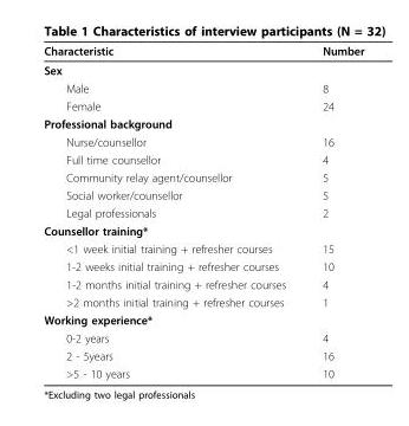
<table><thead><tr><td>Characteristic</td><td>Number</td></tr></thead><tbody><tr><td colspan="2">Sex</td></tr><tr><td>Male</td><td>8</td></tr><tr><td>Female</td><td>24</td></tr><tr><td colspan="2">Professional background</td></tr><tr><td>Nurse/counsellor</td><td>16</td></tr><tr><td>Full time counsellor</td><td>4</td></tr><tr><td>Community relay agent/counsellor</td><td>5</td></tr><tr><td>Social worker/counsellor</td><td>5</td></tr><tr><td>Legal professionals</td><td>2</td></tr><tr><td colspan="2">Counsellor training*</td></tr><tr><td>&lt;1 week initial training + refresher courses</td><td>15</td></tr><tr><td>1-2 weeks initial training + refresher courses</td><td>10</td></tr><tr><td>1-2 months initial training + refresher courses</td><td>4</td></tr><tr><td>&gt;2 months initial training + refresher courses</td><td>1</td></tr><tr><td colspan="2">Working experience*</td></tr><tr><td>0-2 years</td><td>4</td></tr><tr><td>2 - 5years</td><td>16</td></tr><tr><td>&gt;5 - 10 years</td><td>10</td></tr></tbody></table>